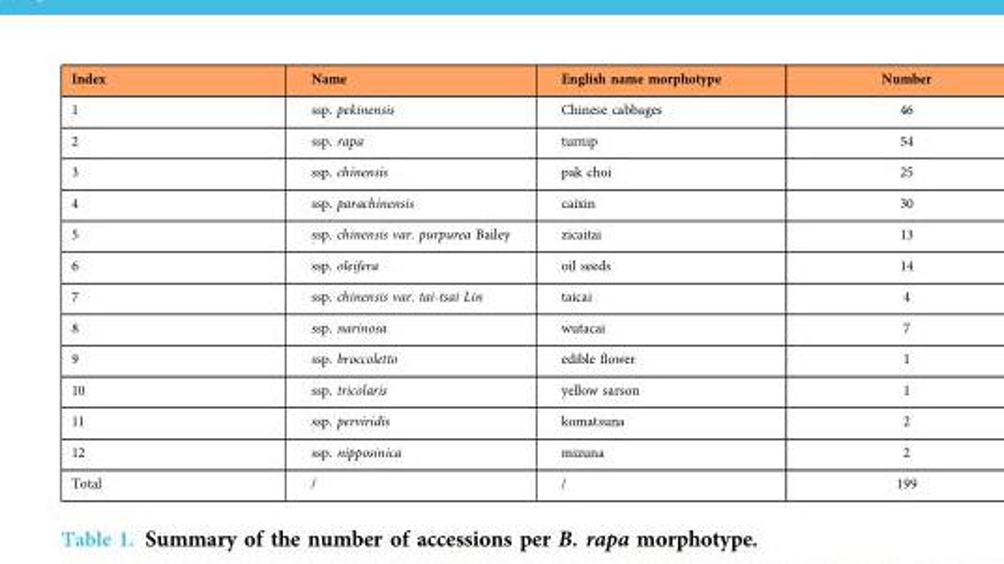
<table><thead><tr><td>Index</td><td>Name</td><td>English name morphotype</td><td>Number</td></tr></thead><tbody><tr><td>1</td><td>ssp. pekinensis</td><td>Chinese cabbages</td><td>46</td></tr><tr><td>2</td><td>ssp. rapa</td><td>turnip</td><td>54</td></tr><tr><td>3</td><td>ssp. chinensis</td><td>pak choi</td><td>25</td></tr><tr><td>4</td><td>ssp. parachinensis</td><td>caixin</td><td>30</td></tr><tr><td>5</td><td>ssp. chinensis var. purpurea Bailey</td><td>zicaitai</td><td>13</td></tr><tr><td>6</td><td>ssp. oleifera</td><td>oil seeds</td><td>14</td></tr><tr><td>7</td><td>ssp. chinensis var. tai-tsai Lin</td><td>taicai</td><td>4</td></tr><tr><td>8</td><td>ssp. narinosa</td><td>wutacai</td><td>7</td></tr><tr><td>9</td><td>ssp. broccoletto</td><td>edible flower</td><td>1</td></tr><tr><td>10</td><td>ssp. tricolaris</td><td>yellow sarson</td><td>1</td></tr><tr><td>11</td><td>ssp. perviridis</td><td>komatsuna</td><td>2</td></tr><tr><td>12</td><td>ssp. nipposinica</td><td>mizuna</td><td>2</td></tr><tr><td>Total</td><td>/</td><td>/</td><td>199</td></tr></tbody></table>